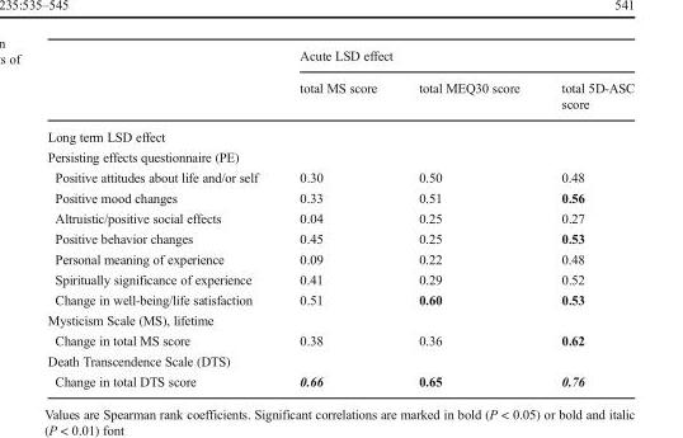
<table><thead><tr><td rowspan="2"></td><td colspan="3">Acute LSD effect</td></tr><tr><td>total MS score</td><td>total MEQ30 score</td><td>total 5D-ASC score</td></tr></thead><tbody><tr><td colspan="4">Long term LSD effect</td></tr><tr><td colspan="4">Persisting effects questionnaire (PE)</td></tr><tr><td>Positive attitudes about life and/or self</td><td>0.30</td><td>0.50</td><td>0.48</td></tr><tr><td>Positive mood changes</td><td>0.33</td><td>0.51</td><td>0.56</td></tr><tr><td>Altruistic/positive social effects</td><td>0.04</td><td>0.25</td><td>0.27</td></tr><tr><td>Positive behavior changes</td><td>0.45</td><td>0.25</td><td>0.53</td></tr><tr><td>Personal meaning of experience</td><td>0.09</td><td>0.22</td><td>0.48</td></tr><tr><td>Spiritually significance of experience</td><td>0.41</td><td>0.29</td><td>0.52</td></tr><tr><td>Change in well-being/life satisfaction</td><td>0.51</td><td>0.60</td><td>0.53</td></tr><tr><td colspan="4">Mysticism Scale (MS), lifetime</td></tr><tr><td>Change in total MS score</td><td>0.38</td><td>0.36</td><td>0.62</td></tr><tr><td colspan="4">Death Transcendence Scale (DTS)</td></tr><tr><td>Change in total DTS score</td><td>0.66</td><td>0.65</td><td>0.76</td></tr></tbody></table>